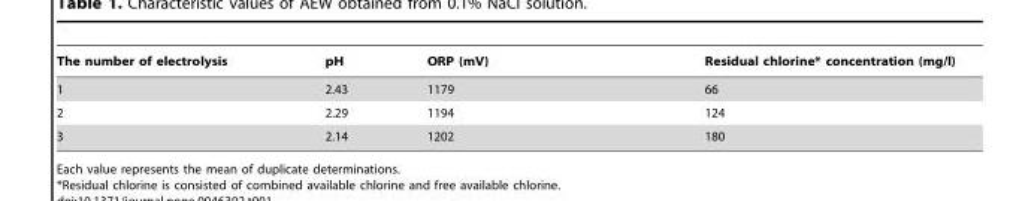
<table><thead><tr><td>The number of electrolysis</td><td>pH</td><td>ORP (mV)</td><td>Residual chlorine* concentration (mg/l)</td></tr></thead><tbody><tr><td>1</td><td>2.43</td><td>1179</td><td>66</td></tr><tr><td>2</td><td>2.29</td><td>1194</td><td>124</td></tr><tr><td>3</td><td>2.14</td><td>1202</td><td>180</td></tr></tbody></table>